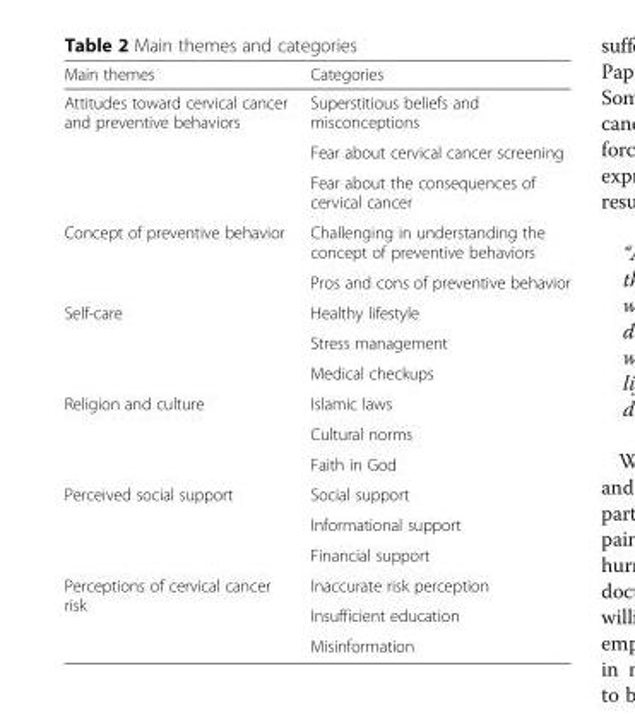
<table><thead><tr><td>Main themes</td><td>Categories</td></tr></thead><tbody><tr><td rowspan="3">Attitudes toward cervical cancer and preventive behaviors</td><td>Superstitious beliefs and misconceptions</td></tr><tr><td>Fear about cervical cancer screening</td></tr><tr><td>Fear about the consequences of cervical cancer</td></tr><tr><td rowspan="2">Concept of preventive behavior</td><td>Challenging in understanding the concept of preventive behaviors</td></tr><tr><td>Pros and cons of preventive behavior</td></tr><tr><td rowspan="3">Self-care</td><td>Healthy lifestyle</td></tr><tr><td>Stress management</td></tr><tr><td>Medical checkups</td></tr><tr><td rowspan="3">Religion and culture</td><td>Islamic laws</td></tr><tr><td>Cultural norms</td></tr><tr><td>Faith in God</td></tr><tr><td rowspan="3">Perceived social support</td><td>Social support</td></tr><tr><td>Informational support</td></tr><tr><td>Financial support</td></tr><tr><td rowspan="3">Perceptions of cervical cancer risk</td><td>Inaccurate risk perception</td></tr><tr><td>Insufficient education</td></tr><tr><td>Misinformation</td></tr></tbody></table>